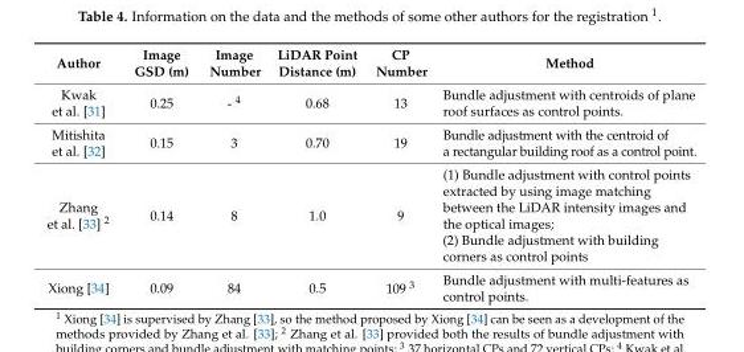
<table><thead><tr><td>Author</td><td>Image GSD (m)</td><td>Image Number</td><td>LiDAR Point Distance (m)</td><td>CP Number</td><td>Method</td></tr></thead><tbody><tr><td>Kwak et al. [31]</td><td>0.25</td><td>- <sup>4</sup></td><td>0.68</td><td>13</td><td>Bundle adjustment with centroids of plane roof surfaces as control points.</td></tr><tr><td>Mitishita et al. [32]</td><td>0.15</td><td>3</td><td>0.70</td><td>19</td><td>Bundle adjustment with the centroid of a rectangular building roof as a control point.</td></tr><tr><td>Zhang et al. [33] <sup>2</sup></td><td>0.14</td><td>8</td><td>1.0</td><td>9</td><td>(1) Bundle adjustment with control points extracted by using image matching between the LiDAR intensity images and the optical images; (2) Bundle adjustment with building corners as control points</td></tr><tr><td>Xiong [34]</td><td>0.09</td><td>84</td><td>0.5</td><td>109 <sup>3</sup></td><td>Bundle adjustment with multi-features as control points.</td></tr></tbody></table>